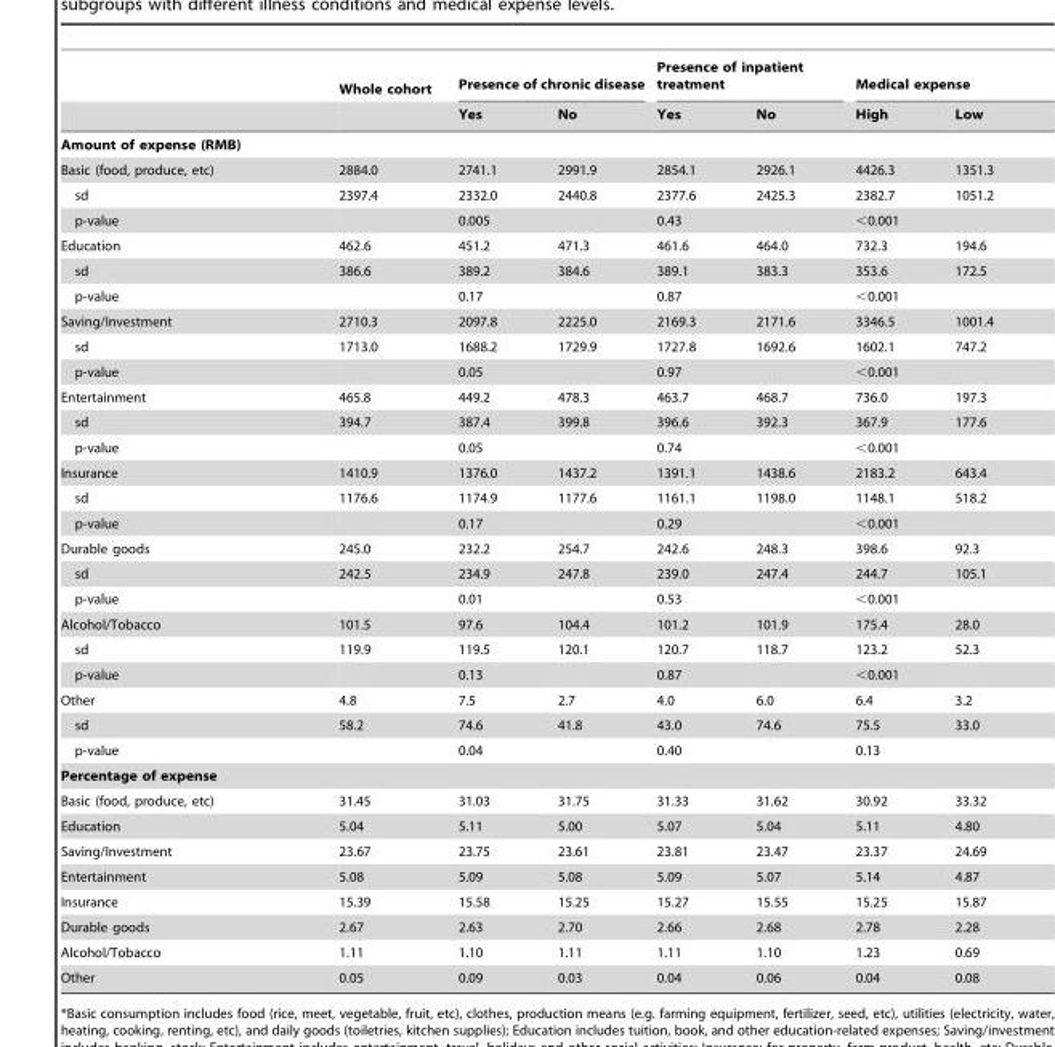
<table><thead><tr><td rowspan="2"></td><td rowspan="2">Whole cohort</td><td colspan="2">Presence of chronic disease</td><td colspan="2">Presence of inpatient treatment</td><td colspan="2">Medical expense</td></tr><tr><td>Yes</td><td>No</td><td>Yes</td><td>No</td><td>High</td><td>Low</td></tr></thead><tbody><tr><td colspan="8">Amount of expense (RMB)</td></tr><tr><td>Basic (food, produce, etc)</td><td>2884.0</td><td>2741.1</td><td>2991.9</td><td>2854.1</td><td>2926.1</td><td>4426.3</td><td>1351.3</td></tr><tr><td>sd</td><td>2397.4</td><td>2332.0</td><td>2440.8</td><td>2377.6</td><td>2425.3</td><td>2382.7</td><td>1051.2</td></tr><tr><td>p-value</td><td></td><td colspan="2">0.005</td><td colspan="2">0.43</td><td colspan="2">&lt;0.001</td></tr><tr><td>Education</td><td>462.6</td><td>451.2</td><td>471.3</td><td>461.6</td><td>464.0</td><td>732.3</td><td>194.6</td></tr><tr><td>sd</td><td>386.6</td><td>389.2</td><td>384.6</td><td>389.1</td><td>383.3</td><td>353.6</td><td>172.5</td></tr><tr><td>p-value</td><td></td><td colspan="2">0.17</td><td colspan="2">0.87</td><td colspan="2">&lt;0.001</td></tr><tr><td>Saving/Investment</td><td>2710.3</td><td>2097.8</td><td>2225.0</td><td>2169.3</td><td>2171.6</td><td>3346.5</td><td>1001.4</td></tr><tr><td>sd</td><td>1713.0</td><td>1688.2</td><td>1729.9</td><td>1727.8</td><td>1692.6</td><td>1602.1</td><td>747.2</td></tr><tr><td>p-value</td><td></td><td colspan="2">0.05</td><td colspan="2">0.97</td><td colspan="2">&lt;0.001</td></tr><tr><td>Entertainment</td><td>465.8</td><td>449.2</td><td>478.3</td><td>463.7</td><td>468.7</td><td>736.0</td><td>197.3</td></tr><tr><td>sd</td><td>394.7</td><td>387.4</td><td>399.8</td><td>396.6</td><td>392.3</td><td>367.9</td><td>177.6</td></tr><tr><td>p-value</td><td></td><td colspan="2">0.05</td><td colspan="2">0.74</td><td colspan="2">&lt;0.001</td></tr><tr><td>Insurance</td><td>1410.9</td><td>1376.0</td><td>1437.2</td><td>1391.1</td><td>1438.6</td><td>2183.2</td><td>643.4</td></tr><tr><td>sd</td><td>1176.6</td><td>1174.9</td><td>1177.6</td><td>1161.1</td><td>1198.0</td><td>1148.1</td><td>518.2</td></tr><tr><td>p-value</td><td></td><td colspan="2">0.17</td><td colspan="2">0.29</td><td colspan="2">&lt;0.001</td></tr><tr><td>Durable goods</td><td>245.0</td><td>232.2</td><td>254.7</td><td>242.6</td><td>248.3</td><td>398.6</td><td>92.3</td></tr><tr><td>sd</td><td>242.5</td><td>234.9</td><td>247.8</td><td>239.0</td><td>247.4</td><td>244.7</td><td>105.1</td></tr><tr><td>p-value</td><td></td><td colspan="2">0.01</td><td colspan="2">0.53</td><td colspan="2">&lt;0.001</td></tr><tr><td>Alcohol/Tobacco</td><td>101.5</td><td>97.6</td><td>104.4</td><td>101.2</td><td>101.9</td><td>175.4</td><td>28.0</td></tr><tr><td>sd</td><td>119.9</td><td>119.5</td><td>120.1</td><td>120.7</td><td>118.7</td><td>123.2</td><td>52.3</td></tr><tr><td>p-value</td><td></td><td colspan="2">0.13</td><td colspan="2">0.87</td><td colspan="2">&lt;0.001</td></tr><tr><td>Other</td><td>4.8</td><td>7.5</td><td>2.7</td><td>4.0</td><td>6.0</td><td>6.4</td><td>3.2</td></tr><tr><td>sd</td><td>58.2</td><td>74.6</td><td>41.8</td><td>43.0</td><td>74.6</td><td>75.5</td><td>33.0</td></tr><tr><td>p-value</td><td></td><td colspan="2">0.04</td><td colspan="2">0.40</td><td colspan="2">0.13</td></tr><tr><td colspan="8">Percentage of expense</td></tr><tr><td>Basic (food, produce, etc)</td><td>31.45</td><td>31.03</td><td>31.75</td><td>31.33</td><td>31.62</td><td>30.92</td><td>33.32</td></tr><tr><td>Education</td><td>5.04</td><td>5.11</td><td>5.00</td><td>5.07</td><td>5.04</td><td>5.11</td><td>4.80</td></tr><tr><td>Saving/Investment</td><td>23.67</td><td>23.75</td><td>23.61</td><td>23.81</td><td>23.47</td><td>23.37</td><td>24.69</td></tr><tr><td>Entertainment</td><td>5.08</td><td>5.09</td><td>5.08</td><td>5.09</td><td>5.07</td><td>5.14</td><td>4.87</td></tr><tr><td>Insurance</td><td>15.39</td><td>15.58</td><td>15.25</td><td>15.27</td><td>15.55</td><td>15.25</td><td>15.87</td></tr><tr><td>Durable goods</td><td>2.67</td><td>2.63</td><td>2.70</td><td>2.66</td><td>2.68</td><td>2.78</td><td>2.28</td></tr><tr><td>Alcohol/Tobacco</td><td>1.11</td><td>1.10</td><td>1.11</td><td>1.11</td><td>1.10</td><td>1.23</td><td>0.69</td></tr><tr><td>Other</td><td>0.05</td><td>0.09</td><td>0.03</td><td>0.04</td><td>0.06</td><td>0.04</td><td>0.08</td></tr></tbody></table>